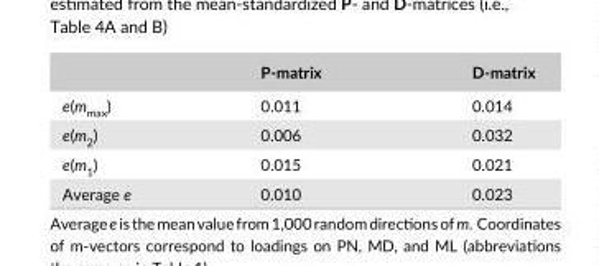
<table><thead><tr><td></td><td>P- matrix</td><td>D- matrix</td></tr></thead><tbody><tr><td>e(m<sub>max</sub>)</td><td>0.011</td><td>0.014</td></tr><tr><td>e(m<sub>2</sub>)</td><td>0.006</td><td>0.032</td></tr><tr><td>e(m<sub>1</sub>)</td><td>0.015</td><td>0.021</td></tr><tr><td>Average e</td><td>0.010</td><td>0.023</td></tr></tbody></table>